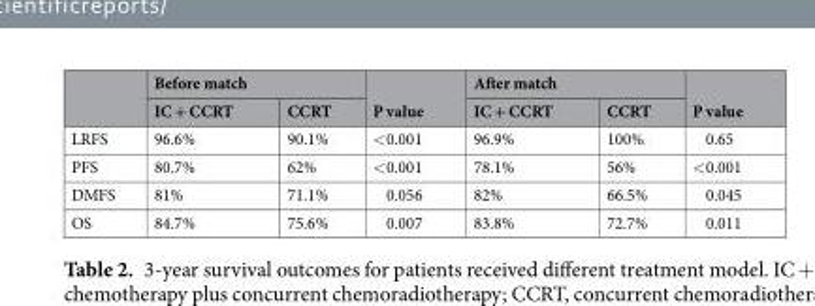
<table><thead><tr><td rowspan="2"></td><td colspan="2">Before match</td><td rowspan="2">P value</td><td colspan="2">After match</td><td rowspan="2">P value</td></tr><tr><td>IC + CCRT</td><td>CCRT</td><td>IC + CCRT</td><td>CCRT</td></tr></thead><tbody><tr><td>LRFS</td><td>96.6%</td><td>90.1%</td><td>&lt;0.001</td><td>96.9%</td><td>100%</td><td>0.65</td></tr><tr><td>PFS</td><td>80.7%</td><td>62%</td><td>&lt;0.001</td><td>78.1%</td><td>56%</td><td>&lt;0.001</td></tr><tr><td>DMFS</td><td>81%</td><td>71.1%</td><td>0.056</td><td>82%</td><td>66.5%</td><td>0.045</td></tr><tr><td>OS</td><td>84.7%</td><td>75.6%</td><td>0.007</td><td>83.8%</td><td>72.7%</td><td>0.011</td></tr></tbody></table>